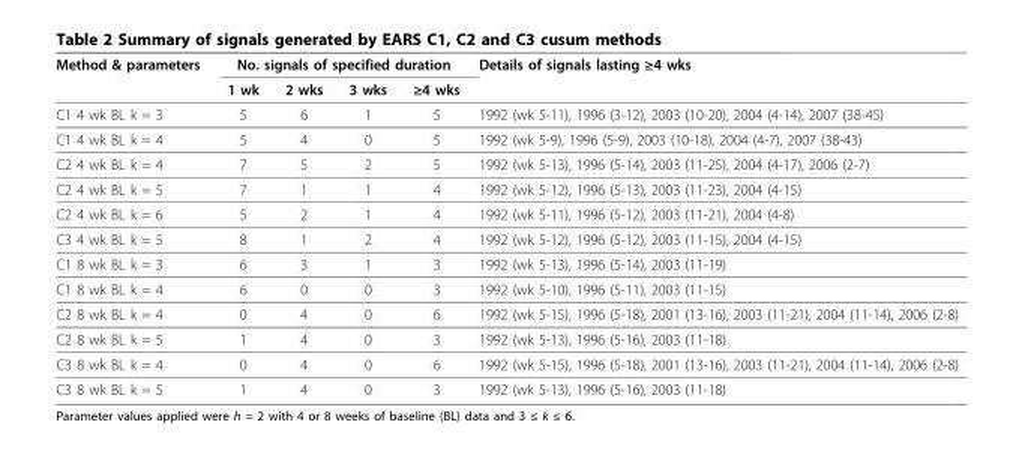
<table><thead><tr><td rowspan="2">Method &amp; parameters</td><td colspan="4">No. signals of specified duration</td><td rowspan="2">Details of signals lasting ≥4 wks</td></tr><tr><td>1 wk</td><td>2 wks</td><td>3 wks</td><td>≥4 wks</td></tr></thead><tbody><tr><td>C1 4 wk BL k = 3</td><td>5</td><td>6</td><td>1</td><td>5</td><td>1992 (wk 5-11), 1996 (3-12), 2003 (10-20), 2004 (4-14), 2007 (38-45)</td></tr><tr><td>C1 4 wk BL k = 4</td><td>5</td><td>4</td><td>0</td><td>5</td><td>1992 (wk 5-9), 1996 (5-9), 2003 (10-18), 2004 (4-7), 2007 (38-43)</td></tr><tr><td>C2 4 wk BL k = 4</td><td>7</td><td>5</td><td>2</td><td>5</td><td>1992 (wk 5-13), 1996 (5-14), 2003 (11-25), 2004 (4-17), 2006 (2-7)</td></tr><tr><td>C2 4 wk BL k = 5</td><td>7</td><td>1</td><td>1</td><td>4</td><td>1992 (wk 5-12), 1996 (5-13), 2003 (11-23), 2004 (4-15)</td></tr><tr><td>C2 4 wk BL k = 6</td><td>5</td><td>2</td><td>1</td><td>4</td><td>1992 (wk 5-11), 1996 (5-12), 2003 (11-21), 2004 (4-8)</td></tr><tr><td>C3 4 wk BL k = 5</td><td>8</td><td>1</td><td>2</td><td>4</td><td>1992 (wk 5-12), 1996 (5-12), 2003 (11-15), 2004 (4-15)</td></tr><tr><td>C1 8 wk BL k = 3</td><td>6</td><td>3</td><td>1</td><td>3</td><td>1992 (wk 5-13), 1996 (5-14), 2003 (11-19)</td></tr><tr><td>C1 8 wk BL k = 4</td><td>6</td><td>0</td><td>0</td><td>3</td><td>1992 (wk 5-10), 1996 (5-11), 2003 (11-15)</td></tr><tr><td>C2 8 wk BL k = 4</td><td>0</td><td>4</td><td>0</td><td>6</td><td>1992 (wk 5-15), 1996 (5-18), 2001 (13-16), 2003 (11-21), 2004 (11-14), 2006 (2-8)</td></tr><tr><td>C2 8 wk BL k = 5</td><td>1</td><td>4</td><td>0</td><td>3</td><td>1992 (wk 5-13), 1996 (5-16), 2003 (11-18)</td></tr><tr><td>C3 8 wk BL k = 4</td><td>0</td><td>4</td><td>0</td><td>6</td><td>1992 (wk 5-15), 1996 (5-18), 2001 (13-16), 2003 (11-21), 2004 (11-14), 2006 (2-8)</td></tr><tr><td>C3 8 wk BL k = 5</td><td>1</td><td>4</td><td>0</td><td>3</td><td>1992 (wk 5-13), 1996 (5-16), 2003 (11-18)</td></tr></tbody></table>